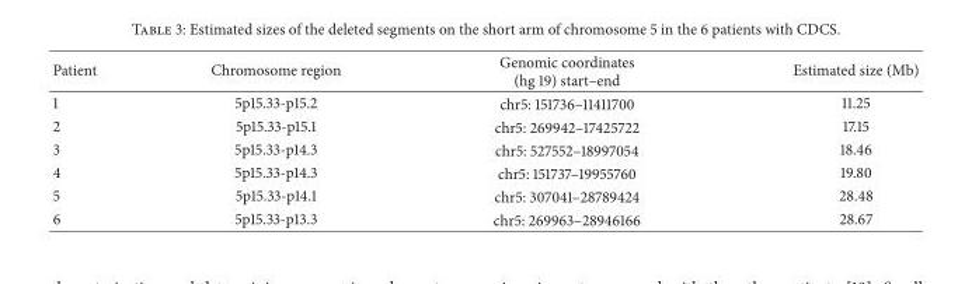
<table><thead><tr><td>Patient</td><td>Chromosome region</td><td>Genomic coordinates (hg 19) start–end</td><td>Estimated size (Mb)</td></tr></thead><tbody><tr><td>1</td><td>5p15.33-p15.2</td><td>chr5: 151736–11411700</td><td>11.25</td></tr><tr><td>2</td><td>5p15.33-p15.1</td><td>chr5: 269942–17425722</td><td>17.15</td></tr><tr><td>3</td><td>5p15.33-p14.3</td><td>chr5: 527552–18997054</td><td>18.46</td></tr><tr><td>4</td><td>5p15.33-p14.3</td><td>chr5: 151737–19955760</td><td>19.80</td></tr><tr><td>5</td><td>5p15.33-p14.1</td><td>chr5: 307041–28789424</td><td>28.48</td></tr><tr><td>6</td><td>5p15.33-p13.3</td><td>chr5: 269963–28946166</td><td>28.67</td></tr></tbody></table>